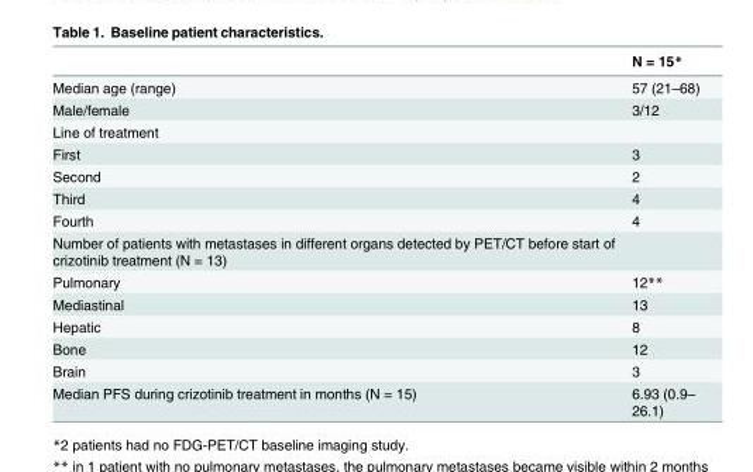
<table><thead><tr><td></td><td>N = 15*</td></tr></thead><tbody><tr><td>Median age (range)</td><td>57 (21–68)</td></tr><tr><td>Male/female</td><td>3/12</td></tr><tr><td colspan="2">Line of treatment</td></tr><tr><td>First</td><td>3</td></tr><tr><td>Second</td><td>2</td></tr><tr><td>Third</td><td>4</td></tr><tr><td>Fourth</td><td>4</td></tr><tr><td colspan="2">Number of patients with metastases in different organs detected by PET/CT before start of crizotinib treatment (N = 13)</td></tr><tr><td>Pulmonary</td><td>12**</td></tr><tr><td>Mediastinal</td><td>13</td></tr><tr><td>Hepatic</td><td>8</td></tr><tr><td>Bone</td><td>12</td></tr><tr><td>Brain</td><td>3</td></tr><tr><td>Median PFS during crizotinib treatment in months (N = 15)</td><td>6.93 (0.9– 26.1)</td></tr></tbody></table>